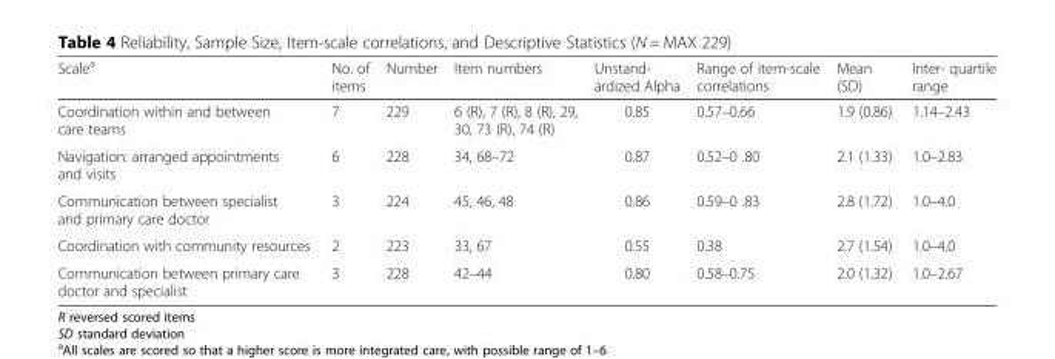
<table><thead><tr><td>Scale<sup>a</sup></td><td>No. of items</td><td>Number</td><td>Item numbers</td><td>Unstand- ardized Alpha</td><td>Range of item-scale correlations</td><td>Mean (SD)</td><td>Inter- quartile range</td></tr></thead><tbody><tr><td>Coordination within and between care teams</td><td>7</td><td>229</td><td>6 (R), 7 (R), 8 (R), 29, 30, 73 (R), 74 (R)</td><td>0.85</td><td>0.57–0.66</td><td>1.9 (0.86)</td><td>1.14–2.43</td></tr><tr><td>Navigation: arranged appointments and visits</td><td>6</td><td>228</td><td>34, 68–72</td><td>0.87</td><td>0.52–0 .80</td><td>2.1 (1.33)</td><td>1.0–2.83</td></tr><tr><td>Communication between specialist and primary care doctor</td><td>3</td><td>224</td><td>45, 46, 48</td><td>0.86</td><td>0.59–0 .83</td><td>2.8 (1.72)</td><td>1.0–4.0</td></tr><tr><td>Coordination with community resources</td><td>2</td><td>223</td><td>33, 67</td><td>0.55</td><td>0.38</td><td>2.7 (1.54)</td><td>1.0–4.0</td></tr><tr><td>Communication between primary care doctor and specialist</td><td>3</td><td>228</td><td>42–44</td><td>0.80</td><td>0.58–0.75</td><td>2.0 (1.32)</td><td>1.0–2.67</td></tr></tbody></table>